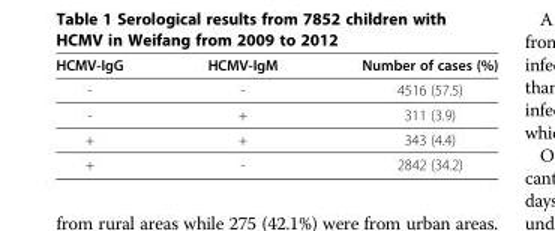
<table><thead><tr><td>HCMV-IgG</td><td>HCMV-IgM</td><td>Number of cases (%)</td></tr></thead><tbody><tr><td>-</td><td>-</td><td>4516 (57.5)</td></tr><tr><td>-</td><td>+</td><td>311 (3.9)</td></tr><tr><td>+</td><td>+</td><td>343 (4.4)</td></tr><tr><td>+</td><td>-</td><td>2842 (34.2)</td></tr></tbody></table>